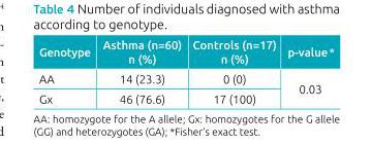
<table><thead><tr><td>Genotype</td><td>Asthma (n=60) n (%)</td><td>Controls (n=17) n (%)</td><td>p‑value*</td></tr></thead><tbody><tr><td>AA</td><td>14 (23.3)</td><td>0 (0)</td><td rowspan="2">0.03</td></tr><tr><td>Gx</td><td>46 (76.6)</td><td>17 (100)</td></tr></tbody></table>